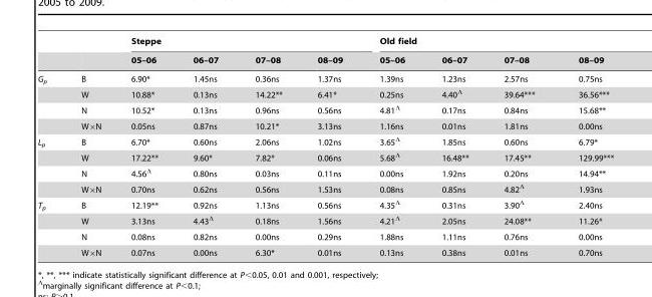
<table><thead><tr><td rowspan="2"></td><td rowspan="2"></td><td colspan="4">Steppe</td><td colspan="4">Old field</td></tr><tr><td>05–06</td><td>06–07</td><td>07–08</td><td>08–09</td><td>05–06</td><td>06–07</td><td>07–08</td><td>08–09</td></tr></thead><tbody><tr><td rowspan="4">G<sub>p</sub></td><td>B</td><td>6.90*</td><td>1.45ns</td><td>0.36ns</td><td>1.37ns</td><td>1.39ns</td><td>1.23ns</td><td>2.57ns</td><td>0.75ns</td></tr><tr><td>W</td><td>10.88*</td><td>0.13ns</td><td>14.22**</td><td>6.41*</td><td>0.25ns</td><td>4.40Λ</td><td>39.64***</td><td>36.56***</td></tr><tr><td>N</td><td>10.52*</td><td>0.13ns</td><td>0.96ns</td><td>0.56ns</td><td>4.81Λ</td><td>0.17ns</td><td>0.84ns</td><td>15.68**</td></tr><tr><td>W×N</td><td>0.05ns</td><td>0.87ns</td><td>10.21*</td><td>3.13ns</td><td>1.16ns</td><td>0.01ns</td><td>1.81ns</td><td>0.00ns</td></tr><tr><td rowspan="4">L<sub>p</sub></td><td>B</td><td>6.70*</td><td>0.60ns</td><td>2.06ns</td><td>1.02ns</td><td>3.65Λ</td><td>1.85ns</td><td>0.60ns</td><td>6.79*</td></tr><tr><td>W</td><td>17.22**</td><td>9.60*</td><td>7.82*</td><td>0.06ns</td><td>5.68Λ</td><td>16.48**</td><td>17.45**</td><td>129.99***</td></tr><tr><td>N</td><td>4.56Λ</td><td>0.80ns</td><td>0.03ns</td><td>0.11ns</td><td>0.00ns</td><td>1.92ns</td><td>0.20ns</td><td>14.94**</td></tr><tr><td>W×N</td><td>0.70ns</td><td>0.62ns</td><td>0.56ns</td><td>1.53ns</td><td>0.08ns</td><td>0.85ns</td><td>4.82Λ</td><td>1.93ns</td></tr><tr><td rowspan="4">T<sub>p</sub></td><td>B</td><td>12.19**</td><td>0.92ns</td><td>1.13ns</td><td>0.56ns</td><td>4.35Λ</td><td>0.31ns</td><td>3.90Λ</td><td>2.40ns</td></tr><tr><td>W</td><td>3.13ns</td><td>4.43Λ</td><td>0.18ns</td><td>1.56ns</td><td>4.21Λ</td><td>2.05ns</td><td>24.08**</td><td>11.26*</td></tr><tr><td>N</td><td>0.08ns</td><td>0.82ns</td><td>0.00ns</td><td>0.29ns</td><td>1.88ns</td><td>1.11ns</td><td>0.76ns</td><td>0.00ns</td></tr><tr><td>W×N</td><td>0.07ns</td><td>0.00ns</td><td>6.30*</td><td>0.01ns</td><td>0.13ns</td><td>0.38ns</td><td>0.01ns</td><td>0.70ns</td></tr></tbody></table>